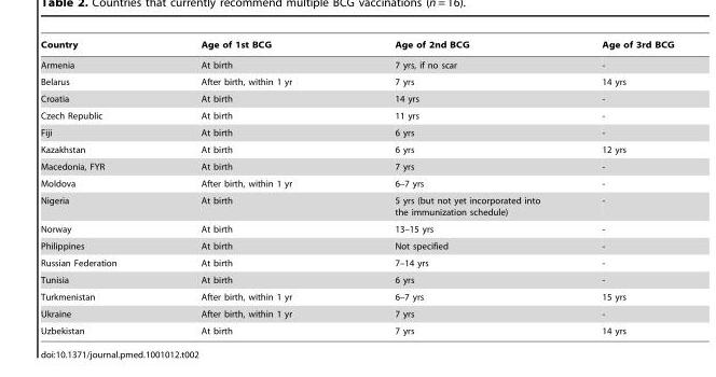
<table><thead><tr><td>Country</td><td>Age of 1st BCG</td><td>Age of 2nd BCG</td><td>Age of 3rd BCG</td></tr></thead><tbody><tr><td>Armenia</td><td>At birth</td><td>7 yrs, if no scar</td><td>-</td></tr><tr><td>Belarus</td><td>After birth, within 1 yr</td><td>7 yrs</td><td>14 yrs</td></tr><tr><td>Croatia</td><td>At birth</td><td>14 yrs</td><td>-</td></tr><tr><td>Czech Republic</td><td>At birth</td><td>11 yrs</td><td>-</td></tr><tr><td>Fiji</td><td>At birth</td><td>6 yrs</td><td>-</td></tr><tr><td>Kazakhstan</td><td>At birth</td><td>6 yrs</td><td>12 yrs</td></tr><tr><td>Macedonia, FYR</td><td>At birth</td><td>7 yrs</td><td>-</td></tr><tr><td>Moldova</td><td>After birth, within 1 yr</td><td>6–7 yrs</td><td>-</td></tr><tr><td>Nigeria</td><td>At birth</td><td>5 yrs (but not yet incorporated into the immunization schedule)</td><td>-</td></tr><tr><td>Norway</td><td>At birth</td><td>13–15 yrs</td><td>-</td></tr><tr><td>Philippines</td><td>At birth</td><td>Not specified</td><td>-</td></tr><tr><td>Russian Federation</td><td>At birth</td><td>7–14 yrs</td><td>-</td></tr><tr><td>Tunisia</td><td>At birth</td><td>6 yrs</td><td>-</td></tr><tr><td>Turkmenistan</td><td>After birth, within 1 yr</td><td>6–7 yrs</td><td>15 yrs</td></tr><tr><td>Ukraine</td><td>After birth, within 1 yr</td><td>7 yrs</td><td>-</td></tr><tr><td>Uzbekistan</td><td>At birth</td><td>7 yrs</td><td>14 yrs</td></tr></tbody></table>